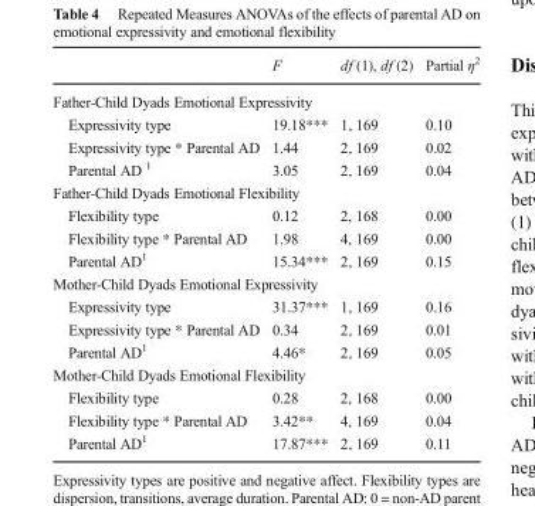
<table><thead><tr><td></td><td>F</td><td>df (1), df (2)</td><td>Partial ƞ<sup>2</sup></td></tr></thead><tbody><tr><td colspan="4">Father-Child Dyads Emotional Expressivity</td></tr><tr><td>Expressivity type</td><td>19.18***</td><td>1, 169</td><td>0.10</td></tr><tr><td>Expressivity type * Parental AD</td><td>1.44</td><td>2, 169</td><td>0.02</td></tr><tr><td>Parental AD <sup>1</sup></td><td>3.05</td><td>2, 169</td><td>0.04</td></tr><tr><td colspan="4">Father-Child Dyads Emotional Flexibility</td></tr><tr><td>Flexibility type</td><td>0.12</td><td>2, 168</td><td>0.00</td></tr><tr><td>Flexibility type * Parental AD</td><td>1.98</td><td>4, 169</td><td>0.00</td></tr><tr><td>Parental AD<sup>1</sup></td><td>15.34***</td><td>2, 169</td><td>0.15</td></tr><tr><td colspan="4">Mother-Child Dyads Emotional Expressivity</td></tr><tr><td>Expressivity type</td><td>31.37***</td><td>1, 169</td><td>0.16</td></tr><tr><td>Expressivity type * Parental AD</td><td>0.34</td><td>2, 169</td><td>0.01</td></tr><tr><td>Parental AD<sup>1</sup></td><td>4.46*</td><td>2, 169</td><td>0.05</td></tr><tr><td colspan="4">Mother-Child Dyads Emotional Flexibility</td></tr><tr><td>Flexibility type</td><td>0.28</td><td>2, 168</td><td>0.00</td></tr><tr><td>Flexibility type * Parental AD</td><td>3.42**</td><td>4, 169</td><td>0.04</td></tr><tr><td>Parental AD<sup>1</sup></td><td>17.87***</td><td>2, 169</td><td>0.11</td></tr></tbody></table>